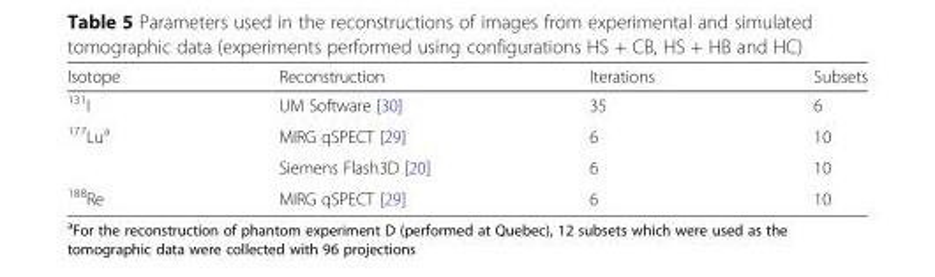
<table><thead><tr><td>Isotope</td><td>Reconstruction</td><td>Iterations</td><td>Subsets</td></tr></thead><tbody><tr><td><sup>131</sup>I</td><td>UM Software [30]</td><td>35</td><td>6</td></tr><tr><td rowspan="2"><sup>177</sup>Lu<sup>a</sup></td><td>MIRG qSPECT [29]</td><td>6</td><td>10</td></tr><tr><td>Siemens Flash3D [20]</td><td>6</td><td>10</td></tr><tr><td><sup>188</sup>Re</td><td>MIRG qSPECT [29]</td><td>6</td><td>10</td></tr></tbody></table>